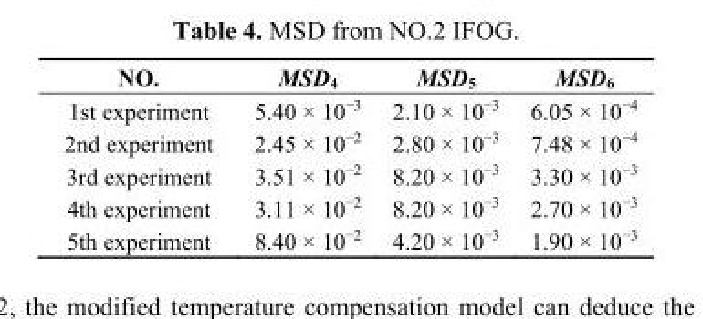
<table><thead><tr><td>NO.</td><td>MSD<sub>4</sub></td><td>MSD<sub>5</sub></td><td>MSD<sub>6</sub></td></tr></thead><tbody><tr><td>1st experiment</td><td>5.40 × 10<sup>−3</sup></td><td>2.10 × 10<sup>−3</sup></td><td>6.05 × 10<sup>−4</sup></td></tr><tr><td>2nd experiment</td><td>2.45 × 10<sup>−2</sup></td><td>2.80 × 10<sup>−3</sup></td><td>7.48 × 10<sup>−4</sup></td></tr><tr><td>3rd experiment</td><td>3.51 × 10<sup>−2</sup></td><td>8.20 × 10<sup>−3</sup></td><td>3.30 × 10<sup>−3</sup></td></tr><tr><td>4th experiment</td><td>3.11 × 10<sup>−2</sup></td><td>8.20 × 10<sup>−3</sup></td><td>2.70 × 10<sup>−3</sup></td></tr><tr><td>5th experiment</td><td>8.40 × 10<sup>−2</sup></td><td>4.20 × 10<sup>−3</sup></td><td>1.90 × 10<sup>−3</sup></td></tr></tbody></table>